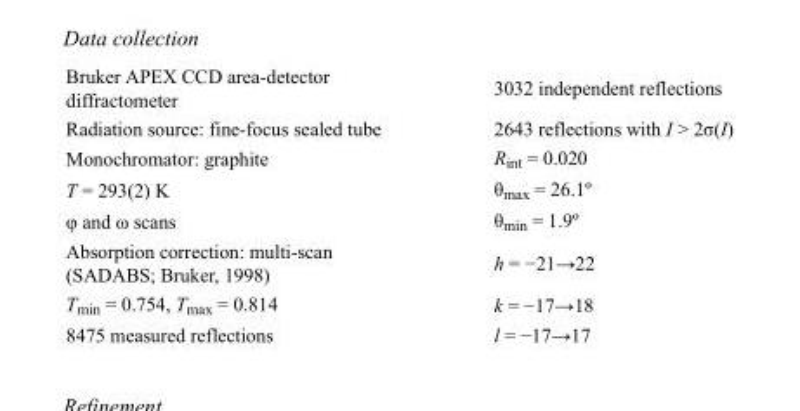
<table><tbody><tr><td>Bruker APEX CCD area-detector diffractometer</td><td>3032 independent reflections</td></tr><tr><td>Radiation source: fine-focus sealed tube</td><td>2643 reflections with I &gt; 2σ(I)</td></tr><tr><td>Monochromator: graphite</td><td>R<sub>int</sub> = 0.020</td></tr><tr><td>T = 293(2) K</td><td>θ<sub>max</sub> = 26.1º</td></tr><tr><td>φ and ω scans</td><td>θ<sub>min</sub> = 1.9º</td></tr><tr><td>Absorption correction: multi-scan (SADABS; Bruker, 1998)</td><td>h = −21→22</td></tr><tr><td>T<sub>min</sub> = 0.754, T<sub>max</sub> = 0.814</td><td>k = −17→18</td></tr><tr><td>8475 measured reflections</td><td>l = −17→17</td></tr></tbody></table>